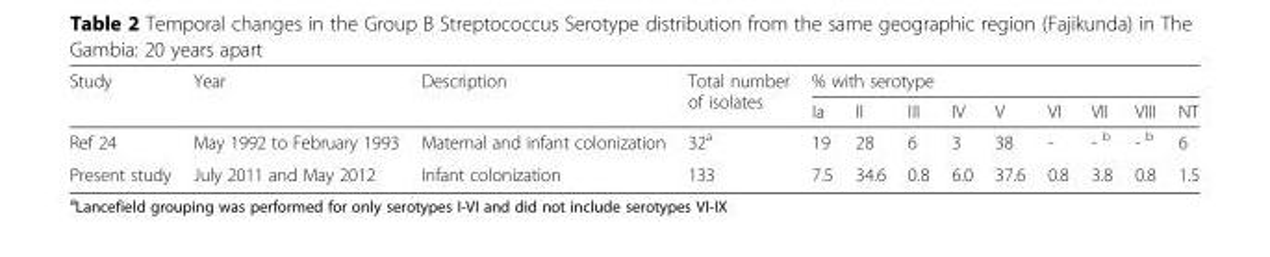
<table><thead><tr><td rowspan="2">Study</td><td rowspan="2">Year</td><td rowspan="2">Description</td><td rowspan="2">Total number of isolates</td><td colspan="9">% with serotype</td></tr><tr><td>Ia</td><td>II</td><td>III</td><td>IV</td><td>V</td><td>VI</td><td>VII</td><td>VIII</td><td>NT</td></tr></thead><tbody><tr><td>Ref 24</td><td>May 1992 to February 1993</td><td>Maternal and infant colonization</td><td>32<sup>a</sup></td><td>19</td><td>28</td><td>6</td><td>3</td><td>38</td><td>-</td><td>- <sup>b</sup></td><td>- <sup>b</sup></td><td>6</td></tr><tr><td>Present study</td><td>July 2011 and May 2012</td><td>Infant colonization</td><td>133</td><td>7.5</td><td>34.6</td><td>0.8</td><td>6.0</td><td>37.6</td><td>0.8</td><td>3.8</td><td>0.8</td><td>1.5</td></tr></tbody></table>